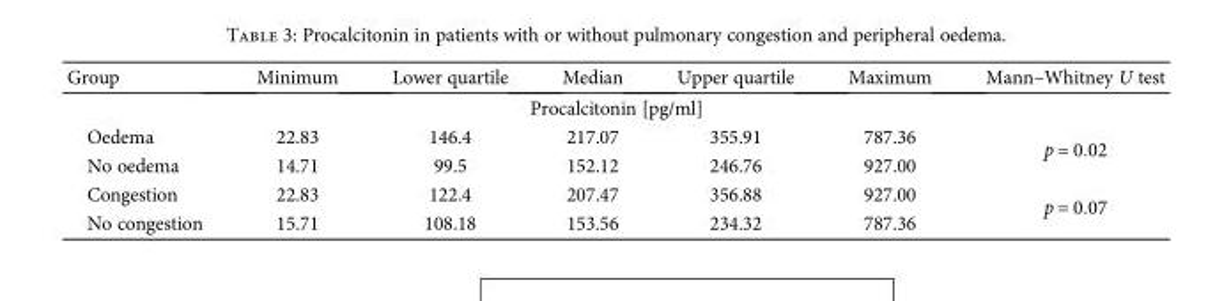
<table><thead><tr><td>Group</td><td>Minimum</td><td>Lower quartile</td><td>Median</td><td>Upper quartile</td><td>Maximum</td><td>Mann–Whitney U test</td></tr></thead><tbody><tr><td colspan="7">Procalcitonin [pg/ml]</td></tr><tr><td>Oedema</td><td>22.83</td><td>146.4</td><td>217.07</td><td>355.91</td><td>787.36</td><td rowspan="2">p = 0 02</td></tr><tr><td>No oedema</td><td>14.71</td><td>99.5</td><td>152.12</td><td>246.76</td><td>927.00</td></tr><tr><td>Congestion</td><td>22.83</td><td>122.4</td><td>207.47</td><td>356.88</td><td>927.00</td><td rowspan="2">p = 0 07</td></tr><tr><td>No congestion</td><td>15.71</td><td>108.18</td><td>153.56</td><td>234.32</td><td>787.36</td></tr></tbody></table>